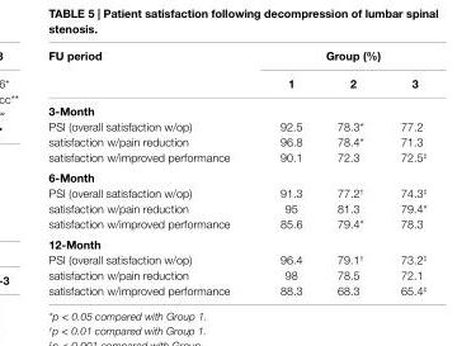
<table><thead><tr><td rowspan="2">FU period</td><td colspan="3">group (%)</td></tr><tr><td>1</td><td>2</td><td>3</td></tr></thead><tbody><tr><td colspan="4">3-Month</td></tr><tr><td>PSI (overall satisfaction w/op)</td><td>92.5</td><td>78.3*</td><td>77.2</td></tr><tr><td>satisfaction w/pain reduction</td><td>96.8</td><td>78.4*</td><td>71.3</td></tr><tr><td>satisfaction w/improved performance</td><td>90.1</td><td>72.3</td><td>72.5<sup>‡</sup></td></tr><tr><td colspan="4">6-Month</td></tr><tr><td>PSI (overall satisfaction w/op)</td><td>91.3</td><td>77.2<sup>†</sup></td><td>74.3<sup>‡</sup></td></tr><tr><td>satisfaction w/pain reduction</td><td>95</td><td>81.3</td><td>79.4*</td></tr><tr><td>satisfaction w/improved performance</td><td>85.6</td><td>79.4*</td><td>78.3</td></tr><tr><td colspan="4">12-Month</td></tr><tr><td>PSI (overall satisfaction w/op)</td><td>96.4</td><td>79.1<sup>†</sup></td><td>73.2<sup>‡</sup></td></tr><tr><td>satisfaction w/pain reduction</td><td>98</td><td>78.5</td><td>72.1</td></tr><tr><td>satisfaction w/improved performance</td><td>88.3</td><td>68.3</td><td>65.4<sup>‡</sup></td></tr></tbody></table>